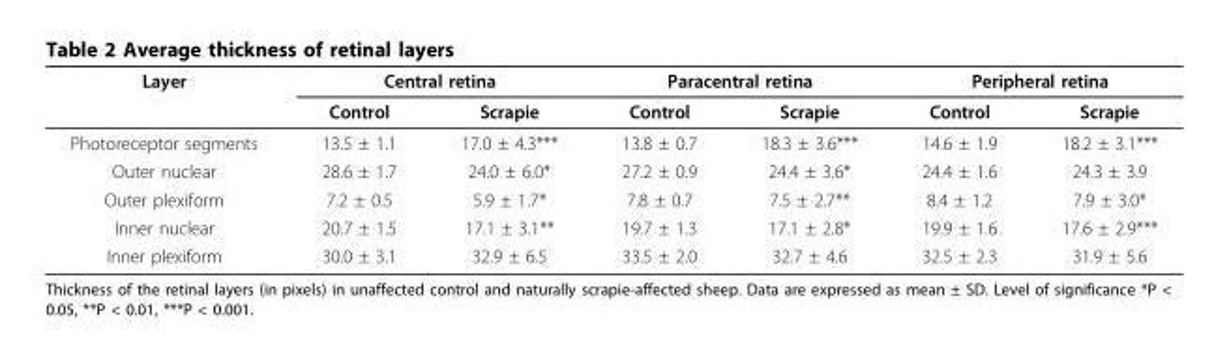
<table><thead><tr><td rowspan="2">Layer</td><td colspan="2">Central retina</td><td colspan="2">Paracentral retina</td><td colspan="2">Peripheral retina</td></tr><tr><td>Control</td><td>Scrapie</td><td>Control</td><td>Scrapie</td><td>Control</td><td>Scrapie</td></tr></thead><tbody><tr><td>Photoreceptor segments</td><td>13.5 ± 1.1</td><td>17.0 ± 4.3***</td><td>13.8 ± 0.7</td><td>18.3 ± 3.6***</td><td>14.6 ± 1.9</td><td>18.2 ± 3.1***</td></tr><tr><td>Outer nuclear</td><td>28.6 ± 1.7</td><td>24.0 ± 6.0*</td><td>27.2 ± 0.9</td><td>24.4 ± 3.6*</td><td>24.4 ± 1.6</td><td>24.3 ± 3.9</td></tr><tr><td>Outer plexiform</td><td>7.2 ± 0.5</td><td>5.9 ± 1.7*</td><td>7.8 ± 0.7</td><td>7.5 ± 2.7**</td><td>8.4 ± 1.2</td><td>7.9 ± 3.0*</td></tr><tr><td>Inner nuclear</td><td>20.7 ± 1.5</td><td>17.1 ± 3.1**</td><td>19.7 ± 1.3</td><td>17.1 ± 2.8*</td><td>19.9 ± 1.6</td><td>17.6 ± 2.9***</td></tr><tr><td>Inner plexiform</td><td>30.0 ± 3.1</td><td>32.9 ± 6.5</td><td>33.5 ± 2.0</td><td>32.7 ± 4.6</td><td>32.5 ± 2.3</td><td>31.9 ± 5.6</td></tr></tbody></table>